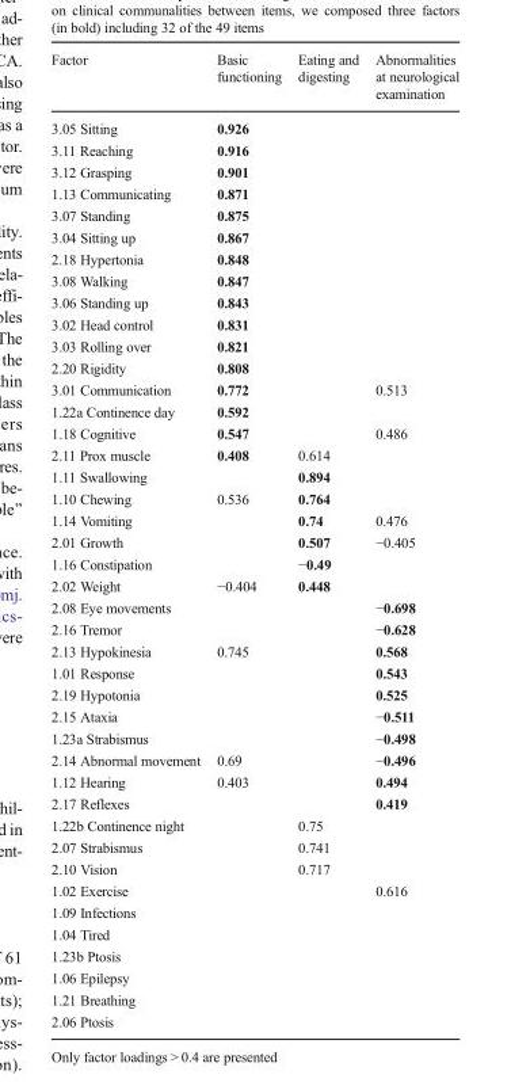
<table><thead><tr><td>Factor</td><td>Basic functioning</td><td>Eating and digesting</td><td>Abnormalities at neurological examination</td></tr></thead><tbody><tr><td>3.05 Sitting</td><td>0.926</td><td></td><td></td></tr><tr><td>3.11 Reaching</td><td>0.916</td><td></td><td></td></tr><tr><td>3.12 Grasping</td><td>0.901</td><td></td><td></td></tr><tr><td>1.13 Communicating</td><td>0.871</td><td></td><td></td></tr><tr><td>3.07 Standing</td><td>0.875</td><td></td><td></td></tr><tr><td>3.04 Sitting up</td><td>0.867</td><td></td><td></td></tr><tr><td>2.18 Hypertonia</td><td>0.848</td><td></td><td></td></tr><tr><td>3.08 Walking</td><td>0.847</td><td></td><td></td></tr><tr><td>3.06 Standing up</td><td>0.843</td><td></td><td></td></tr><tr><td>3.02 Head control</td><td>0.831</td><td></td><td></td></tr><tr><td>3.03 Rolling over</td><td>0.821</td><td></td><td></td></tr><tr><td>2.20 Rigidity</td><td>0.808</td><td></td><td></td></tr><tr><td>3.01 Communication</td><td>0.772</td><td></td><td>0.513</td></tr><tr><td>1.22a Continence day</td><td>0.592</td><td></td><td></td></tr><tr><td>1.18 Cognitive</td><td>0.547</td><td></td><td>0.486</td></tr><tr><td>2.11 Prox muscle</td><td>0.408</td><td>0.614</td><td></td></tr><tr><td>1.11 Swallowing</td><td></td><td>0.894</td><td></td></tr><tr><td>1.10 Chewing</td><td>0.536</td><td>0.764</td><td></td></tr><tr><td>1.14 Vomiting</td><td></td><td>0.74</td><td>0.476</td></tr><tr><td>2.01 Growth</td><td></td><td>0.507</td><td>−0.405</td></tr><tr><td>1.16 Constipation</td><td></td><td>−0.49</td><td></td></tr><tr><td>2.02 Weight</td><td>−0.404</td><td>0.448</td><td></td></tr><tr><td>2.08 Eye movements</td><td></td><td></td><td>−0.698</td></tr><tr><td>2.16 Tremor</td><td></td><td></td><td>−0.628</td></tr><tr><td>2.13 Hypokinesia</td><td>0.745</td><td></td><td>0.568</td></tr><tr><td>1.01 Response</td><td></td><td></td><td>0.543</td></tr><tr><td>2.19 Hypotonia</td><td></td><td></td><td>0.525</td></tr><tr><td>2.15 Ataxia</td><td></td><td></td><td>−0.511</td></tr><tr><td>1.23a Strabismus</td><td></td><td></td><td>−0.498</td></tr><tr><td>2.14 Abnormal movement</td><td>0.69</td><td></td><td>−0.496</td></tr><tr><td>1.12 Hearing</td><td>0.403</td><td></td><td>0.494</td></tr><tr><td>2.17 Reflexes</td><td></td><td></td><td>0.419</td></tr><tr><td>1.22b Continence night</td><td></td><td>0.75</td><td></td></tr><tr><td>2.07 Strabismus</td><td></td><td>0.741</td><td></td></tr><tr><td>2.10 Vision</td><td></td><td>0.717</td><td></td></tr><tr><td>1.02 Exercise</td><td></td><td></td><td>0.616</td></tr><tr><td colspan="4">1.09 Infections</td></tr><tr><td colspan="4">1.04 Tired</td></tr><tr><td colspan="4">1.23b Ptosis</td></tr><tr><td colspan="4">1.06 Epilepsy</td></tr><tr><td colspan="4">1.21 Breathing</td></tr><tr><td>2.06 Ptosis</td><td></td><td></td><td></td></tr></tbody></table>